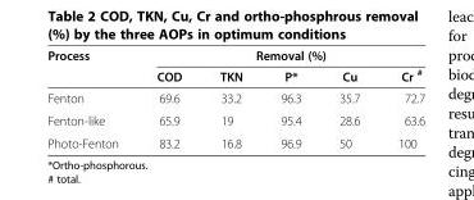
<table><thead><tr><td rowspan="2">Process</td><td colspan="5">Removal (%)</td></tr><tr><td>COD</td><td>TKN</td><td>P*</td><td>Cu</td><td>Cr <sup>#</sup></td></tr></thead><tbody><tr><td>Fenton</td><td>69.6</td><td>33.2</td><td>96.3</td><td>35.7</td><td>72.7</td></tr><tr><td>Fenton-like</td><td>65.9</td><td>19</td><td>95.4</td><td>28.6</td><td>63.6</td></tr><tr><td>Photo-Fenton</td><td>83.2</td><td>16.8</td><td>96.9</td><td>50</td><td>100</td></tr></tbody></table>